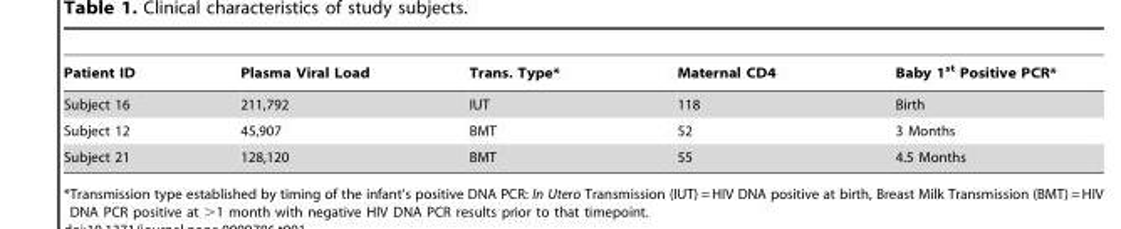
<table><thead><tr><td>Patient ID</td><td>Plasma Viral Load</td><td>Trans. Type*</td><td>Maternal CD4</td><td>Baby 1<sup>st</sup> Positive PCR*</td></tr></thead><tbody><tr><td>Subject 16</td><td>211,792</td><td>IUT</td><td>118</td><td>Birth</td></tr><tr><td>Subject 12</td><td>45,907</td><td>BMT</td><td>52</td><td>3 Months</td></tr><tr><td>Subject 21</td><td>128,120</td><td>BMT</td><td>55</td><td>4.5 Months</td></tr></tbody></table>